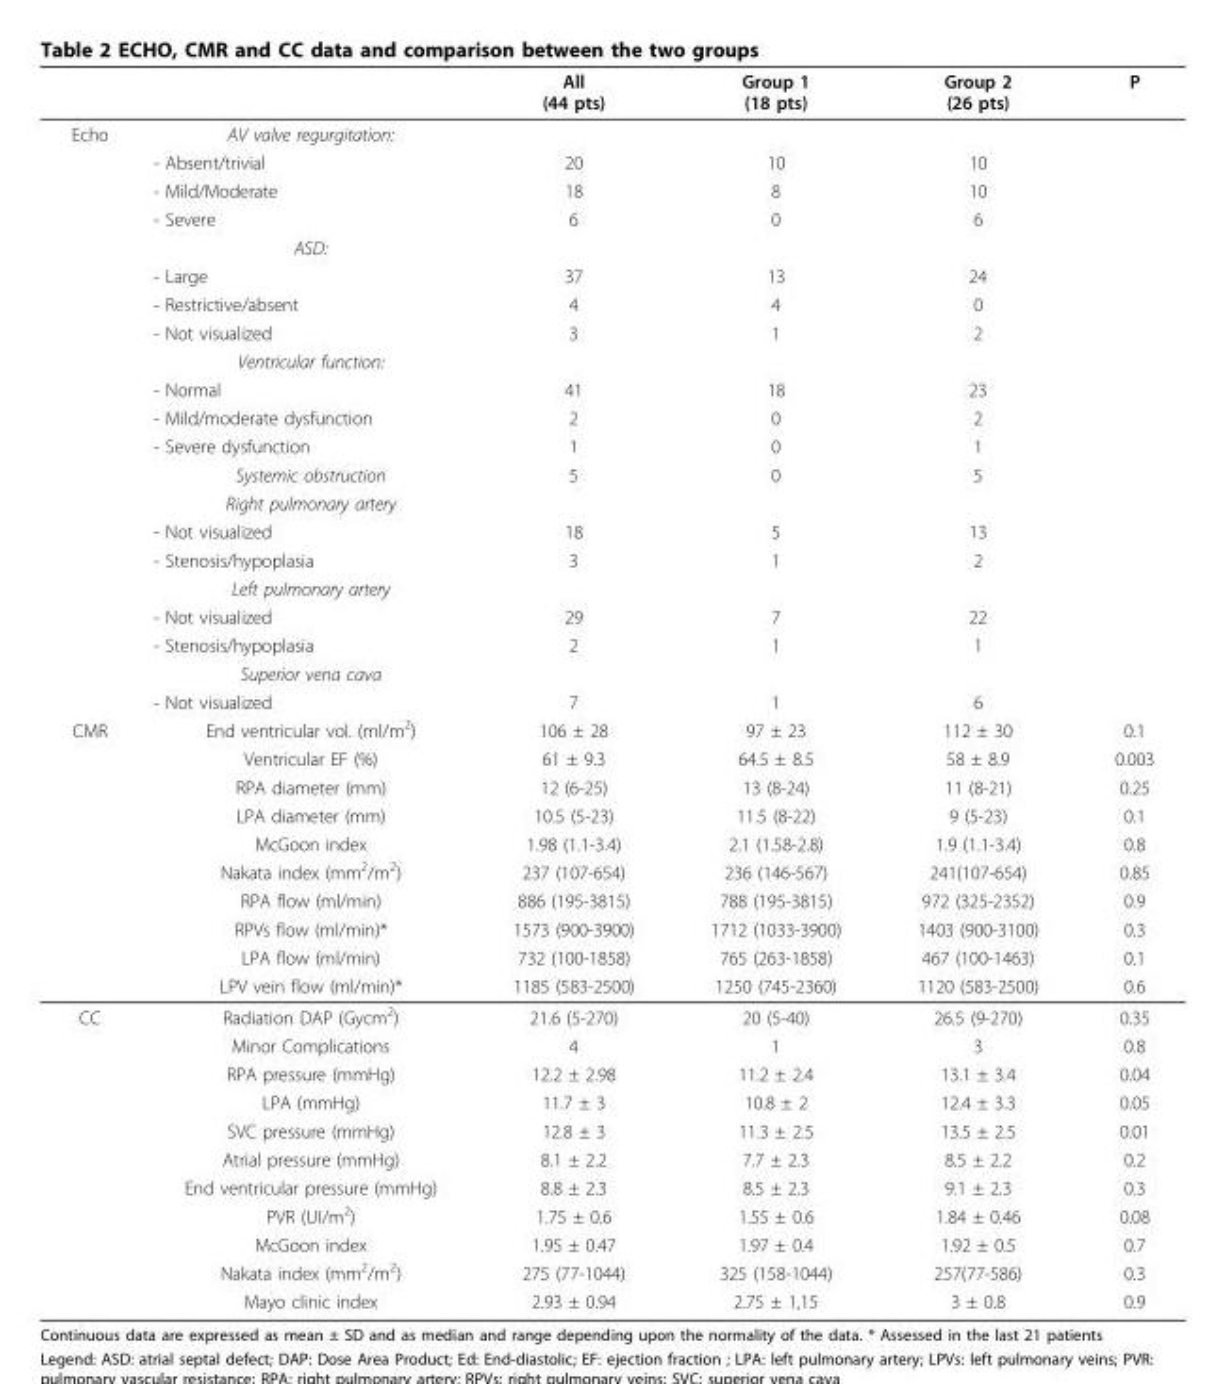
<table><thead><tr><td></td><td></td><td>All (44 pts)</td><td>Group 1 (18 pts)</td><td>Group 2 (26 pts)</td><td>P</td></tr></thead><tbody><tr><td rowspan="21">Echo</td><td>AV valve regurgitation:</td><td></td><td></td><td></td><td></td></tr><tr><td>- Absent/trivial</td><td>20</td><td>10</td><td>10</td><td></td></tr><tr><td>- Mild/Moderate</td><td>18</td><td>8</td><td>10</td><td></td></tr><tr><td>- Severe</td><td>6</td><td>0</td><td>6</td><td></td></tr><tr><td>ASD:</td><td></td><td></td><td></td><td></td></tr><tr><td>- Large</td><td>37</td><td>13</td><td>24</td><td></td></tr><tr><td>- Restrictive/absent</td><td>4</td><td>4</td><td>0</td><td></td></tr><tr><td>- Not visualized</td><td>3</td><td>1</td><td>2</td><td></td></tr><tr><td>Ventricular function:</td><td></td><td></td><td></td><td></td></tr><tr><td>- Normal</td><td>41</td><td>18</td><td>23</td><td></td></tr><tr><td>- Mild/moderate dysfunction</td><td>2</td><td>0</td><td>2</td><td></td></tr><tr><td>- Severe dysfunction</td><td>1</td><td>0</td><td>1</td><td></td></tr><tr><td>Systemic obstruction</td><td>5</td><td>0</td><td>5</td><td></td></tr><tr><td>Right pulmonary artery</td><td></td><td></td><td></td><td></td></tr><tr><td>- Not visualized</td><td>18</td><td>5</td><td>13</td><td></td></tr><tr><td>- Stenosis/hypoplasia</td><td>3</td><td>1</td><td>2</td><td></td></tr><tr><td>Left pulmonary artery</td><td></td><td></td><td></td><td></td></tr><tr><td>- Not visualized</td><td>29</td><td>7</td><td>22</td><td></td></tr><tr><td>- Stenosis/hypoplasia</td><td>2</td><td>1</td><td>1</td><td></td></tr><tr><td>Superior vena cava</td><td></td><td></td><td></td><td></td></tr><tr><td>- Not visualized</td><td>7</td><td>1</td><td>6</td><td></td></tr><tr><td rowspan="10">CMR</td><td>End ventricular vol. (ml/m<sup>2</sup>)</td><td>106 ± 28</td><td>97 ± 23</td><td>112 ± 30</td><td>0.1</td></tr><tr><td>Ventricular EF (%)</td><td>61 ± 9.3</td><td>64.5 ± 8.5</td><td>58 ± 8.9</td><td>0.003</td></tr><tr><td>RPA diameter (mm)</td><td>12 (6-25)</td><td>13 (8-24)</td><td>11 (8-21)</td><td>0.25</td></tr><tr><td>LPA diameter (mm)</td><td>10.5 (5-23)</td><td>11.5 (8-22)</td><td>9 (5-23)</td><td>0.1</td></tr><tr><td>McGoon index</td><td>1.98 (1.1-3.4)</td><td>2.1 (1.58-2.8)</td><td>1.9 (1.1-3.4)</td><td>0.8</td></tr><tr><td>Nakata index (mm<sup>2</sup>/m<sup>2</sup>)</td><td>237 (107-654)</td><td>236 (146-567)</td><td>241(107-654)</td><td>0.85</td></tr><tr><td>RPA flow (ml/min)</td><td>886 (195-3815)</td><td>788 (195-3815)</td><td>972 (325-2352)</td><td>0.9</td></tr><tr><td>RPVs flow (ml/min)*</td><td>1573 (900-3900)</td><td>1712 (1033-3900)</td><td>1403 (900-3100)</td><td>0.3</td></tr><tr><td>LPA flow (ml/min)</td><td>732 (100-1858)</td><td>765 (263-1858)</td><td>467 (100-1463)</td><td>0.1</td></tr><tr><td>LPV vein flow (ml/min)*</td><td>1185 (583-2500)</td><td>1250 (745-2360)</td><td>1120 (583-2500)</td><td>0.6</td></tr><tr><td rowspan="11">CC</td><td>Radiation DAP (Gycm<sup>2</sup>)</td><td>21.6 (5-270)</td><td>20 (5-40)</td><td>26.5 (9-270)</td><td>0.35</td></tr><tr><td>Minor Complications</td><td>4</td><td>1</td><td>3</td><td>0.8</td></tr><tr><td>RPA pressure (mmHg)</td><td>12.2 ± 2.98</td><td>11.2 ± 2.4</td><td>13.1 ± 3.4</td><td>0.04</td></tr><tr><td>LPA (mmHg)</td><td>11.7 ± 3</td><td>10.8 ± 2</td><td>12.4 ± 3.3</td><td>0.05</td></tr><tr><td>SVC pressure (mmHg)</td><td>12.8 ± 3</td><td>11.3 ± 2.5</td><td>13.5 ± 2.5</td><td>0.01</td></tr><tr><td>Atrial pressure (mmHg)</td><td>8.1 ± 2.2</td><td>7.7 ± 2.3</td><td>8.5 ± 2.2</td><td>0.2</td></tr><tr><td>End ventricular pressure (mmHg)</td><td>8.8 ± 2.3</td><td>8.5 ± 2.3</td><td>9.1 ± 2.3</td><td>0.3</td></tr><tr><td>PVR (UI/m<sup>2</sup>)</td><td>1.75 ± 0.6</td><td>1.55 ± 0.6</td><td>1.84 ± 0.46</td><td>0.08</td></tr><tr><td>McGoon index</td><td>1.95 ± 0.47</td><td>1.97 ± 0.4</td><td>1.92 ± 0.5</td><td>0.7</td></tr><tr><td>Nakata index (mm<sup>2</sup>/m<sup>2</sup>)</td><td>275 (77-1044)</td><td>325 (158-1044)</td><td>257(77-586)</td><td>0.3</td></tr><tr><td>Mayo clinic index</td><td>2.93 ± 0.94</td><td>2.75 ± 1,15</td><td>3 ± 0.8</td><td>0.9</td></tr></tbody></table>